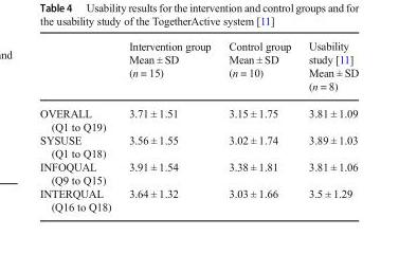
<table><thead><tr><td></td><td>Intervention group Mean ± SD (n = 15)</td><td>Control group Mean ± SD (n = 10)</td><td>Usability study [11] Mean ± SD (n = 8)</td></tr></thead><tbody><tr><td>OVERALL (Q1 to Q19)</td><td>3.71 ± 1.51</td><td>3.15 ± 1.75</td><td>3.81 ± 1.09</td></tr><tr><td>SYSUSE (Q1 to Q18)</td><td>3.56 ± 1.55</td><td>3.02 ± 1.74</td><td>3.89 ± 1.03</td></tr><tr><td>INFOQUAL (Q9 to Q15)</td><td>3.91 ± 1.54</td><td>3.38 ± 1.81</td><td>3.81 ± 1.06</td></tr><tr><td>INTERQUAL (Q16 to Q18)</td><td>3.64 ± 1.32</td><td>3.03 ± 1.66</td><td>3.5 ± 1.29</td></tr></tbody></table>